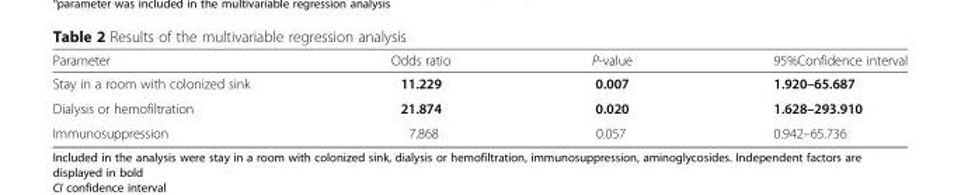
<table><thead><tr><td>Parameter</td><td>Odds ratio</td><td>P-value</td><td>95%Confidence interval</td></tr></thead><tbody><tr><td>Stay in a room with colonized sink</td><td>11.229</td><td>0.007</td><td>1.920–65.687</td></tr><tr><td>Dialysis or hemofiltration</td><td>21.874</td><td>0.020</td><td>1.628–293.910</td></tr><tr><td>Immunosuppression</td><td>7.868</td><td>0.057</td><td>0.942–65.736</td></tr></tbody></table>